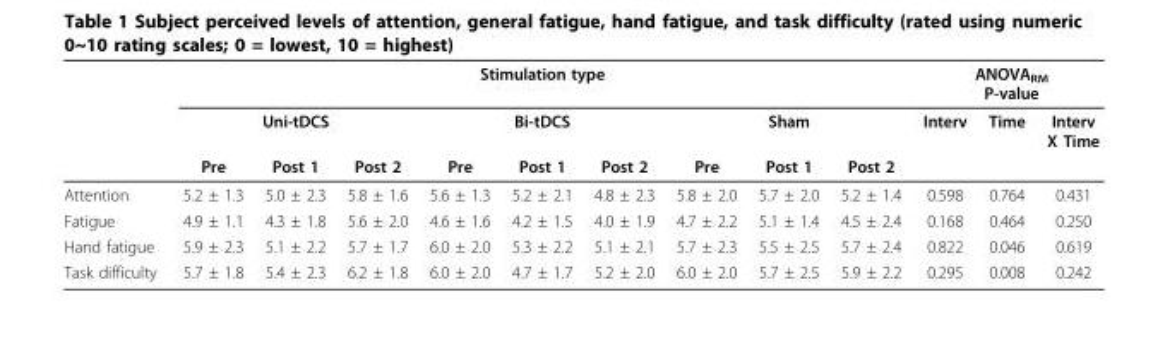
<table><thead><tr><td rowspan="3"></td><td colspan="9">Stimulation type</td><td colspan="3">ANOVA<sub>RM</sub> P-value</td></tr><tr><td colspan="3">Uni-tDCS</td><td colspan="3">Bi-tDCS</td><td colspan="3">Sham</td><td rowspan="2">Interv</td><td rowspan="2">Time</td><td rowspan="2">Interv X Time</td></tr><tr><td>Pre</td><td>Post 1</td><td>Post 2</td><td>Pre</td><td>Post 1</td><td>Post 2</td><td>Pre</td><td>Post 1</td><td>Post 2</td></tr></thead><tbody><tr><td>Attention</td><td>5.2 ± 1.3</td><td>5.0 ± 2.3</td><td>5.8 ± 1.6</td><td>5.6 ± 1.3</td><td>5.2 ± 2.1</td><td>4.8 ± 2.3</td><td>5.8 ± 2.0</td><td>5.7 ± 2.0</td><td>5.2 ± 1.4</td><td>0.598</td><td>0.764</td><td>0.431</td></tr><tr><td>Fatigue</td><td>4.9 ± 1.1</td><td>4.3 ± 1.8</td><td>5.6 ± 2.0</td><td>4.6 ± 1.6</td><td>4.2 ± 1.5</td><td>4.0 ± 1.9</td><td>4.7 ± 2.2</td><td>5.1 ± 1.4</td><td>4.5 ± 2.4</td><td>0.168</td><td>0.464</td><td>0.250</td></tr><tr><td>Hand fatigue</td><td>5.9 ± 2.3</td><td>5.1 ± 2.2</td><td>5.7 ± 1.7</td><td>6.0 ± 2.0</td><td>5.3 ± 2.2</td><td>5.1 ± 2.1</td><td>5.7 ± 2.3</td><td>5.5 ± 2.5</td><td>5.7 ± 2.4</td><td>0.822</td><td>0.046</td><td>0.619</td></tr><tr><td>Task difficulty</td><td>5.7 ± 1.8</td><td>5.4 ± 2.3</td><td>6.2 ± 1.8</td><td>6.0 ± 2.0</td><td>4.7 ± 1.7</td><td>5.2 ± 2.0</td><td>6.0 ± 2.0</td><td>5.7 ± 2.5</td><td>5.9 ± 2.2</td><td>0.295</td><td>0.008</td><td>0.242</td></tr></tbody></table>